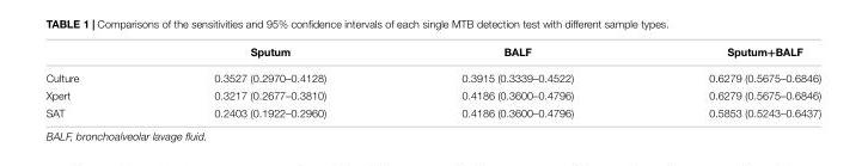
<table><thead><tr><td></td><td>Sputum</td><td>BALF</td><td>Sputum+BALF</td></tr></thead><tbody><tr><td>Culture</td><td>0.3527 (0.2970–0.4128)</td><td>0.3915 (0.3339–0.4522)</td><td>0.6279 (0.5675–0.6846)</td></tr><tr><td>Xpert</td><td>0.3217 (0.2677–0.3810)</td><td>0.4186 (0.3600–0.4796)</td><td>0.6279 (0.5675–0.6846)</td></tr><tr><td>SAT</td><td>0.2403 (0.1922–0.2960)</td><td>0.4186 (0.3600–0.4796)</td><td>0.5853 (0.5243–0.6437)</td></tr></tbody></table>